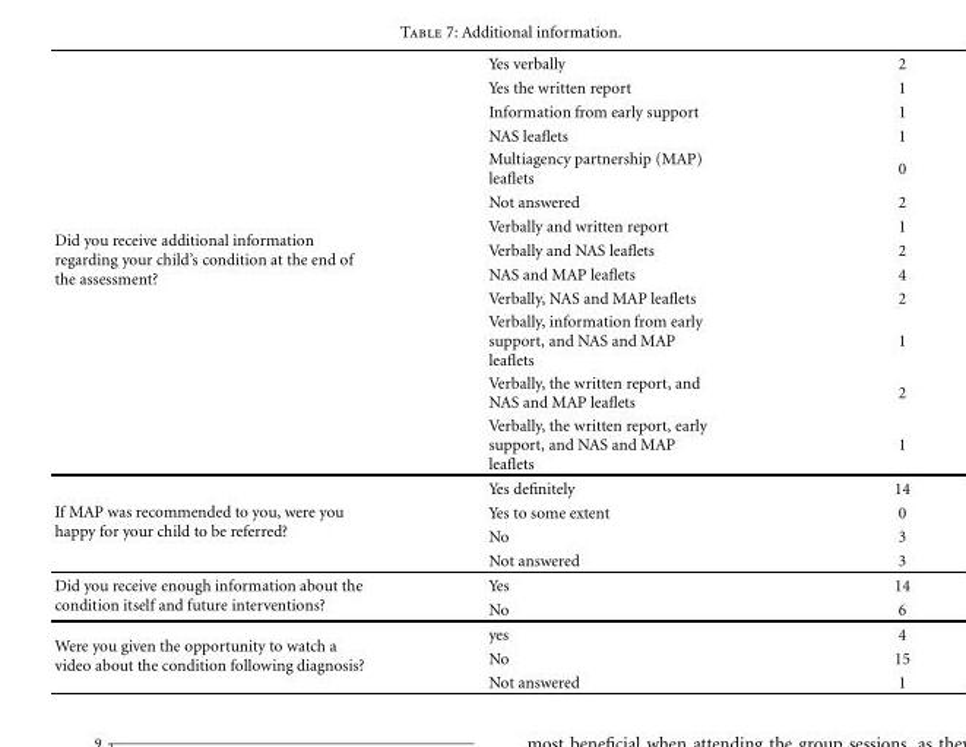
<table><tbody><tr><td rowspan="13">Did you receive additional information regarding your child’s condition at the end of the assessment?</td><td>Yes verbally</td><td>2</td></tr><tr><td>Yes the written report</td><td>1</td></tr><tr><td>Information from early support</td><td>1</td></tr><tr><td>NAS leaflets</td><td>1</td></tr><tr><td>Multiagency partnership (MAP) leaflets</td><td>0</td></tr><tr><td>Not answered</td><td>2</td></tr><tr><td>Verbally and written report</td><td>1</td></tr><tr><td>Verbally and NAS leaflets</td><td>2</td></tr><tr><td>NAS and MAP leaflets</td><td>4</td></tr><tr><td>Verbally, NAS and MAP leaflets</td><td>2</td></tr><tr><td>Verbally, information from early support, and NAS and MAP leaflets</td><td>1</td></tr><tr><td>Verbally, the written report, and NAS and MAP leaflets</td><td>2</td></tr><tr><td>Verbally, the written report, early support, and NAS and MAP leaflets</td><td>1</td></tr><tr><td rowspan="4">If MAP was recommended to you, were you happy for your child to be referred?</td><td>Yes definitely</td><td>14</td></tr><tr><td>Yes to some extent</td><td>0</td></tr><tr><td>No</td><td>3</td></tr><tr><td>Not answered</td><td>3</td></tr><tr><td rowspan="2">Did you receive enough information about the condition itself and future interventions?</td><td>Yes</td><td>14</td></tr><tr><td>No</td><td>6</td></tr><tr><td rowspan="3">Were you given the opportunity to watch a video about the condition following diagnosis?</td><td>yes</td><td>4</td></tr><tr><td>No</td><td>15</td></tr><tr><td>Not answered</td><td>1</td></tr></tbody></table>